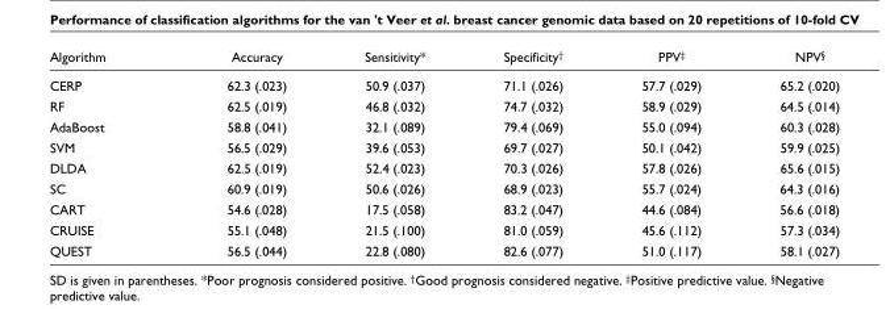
<table><thead><tr><td>Algorithm</td><td>Accuracy</td><td>Sensitivity*</td><td>Specificity†</td><td>PPV‡</td><td>NPV§</td></tr></thead><tbody><tr><td>CERP</td><td>62.3 (.023)</td><td>50.9 (.037)</td><td>71.1 (.026)</td><td>57.7 (.029)</td><td>65.2 (.020)</td></tr><tr><td>RF</td><td>62.5 (.019)</td><td>46.8 (.032)</td><td>74.7 (.032)</td><td>58.9 (.029)</td><td>64.5 (.014)</td></tr><tr><td>AdaBoost</td><td>58.8 (.041)</td><td>32.1 (.089)</td><td>79.4 (.069)</td><td>55.0 (.094)</td><td>60.3 (.028)</td></tr><tr><td>SVM</td><td>56.5 (.029)</td><td>39.6 (.053)</td><td>69.7 (.027)</td><td>50.1 (.042)</td><td>59.9 (.025)</td></tr><tr><td>DLDA</td><td>62.5 (.019)</td><td>52.4 (.023)</td><td>70.3 (.026)</td><td>57.8 (.026)</td><td>65.6 (.015)</td></tr><tr><td>SC</td><td>60.9 (.019)</td><td>50.6 (.026)</td><td>68.9 (.023)</td><td>55.7 (.024)</td><td>64.3 (.016)</td></tr><tr><td>CART</td><td>54.6 (.028)</td><td>17.5 (.058)</td><td>83.2 (.047)</td><td>44.6 (.084)</td><td>56.6 (.018)</td></tr><tr><td>CRUISE</td><td>55.1 (.048)</td><td>21.5 (.100)</td><td>81.0 (.059)</td><td>45.6 (.112)</td><td>57.3 (.034)</td></tr><tr><td>QUEST</td><td>56.5 (.044)</td><td>22.8 (.080)</td><td>82.6 (.077)</td><td>51.0 (.117)</td><td>58.1 (.027)</td></tr></tbody></table>